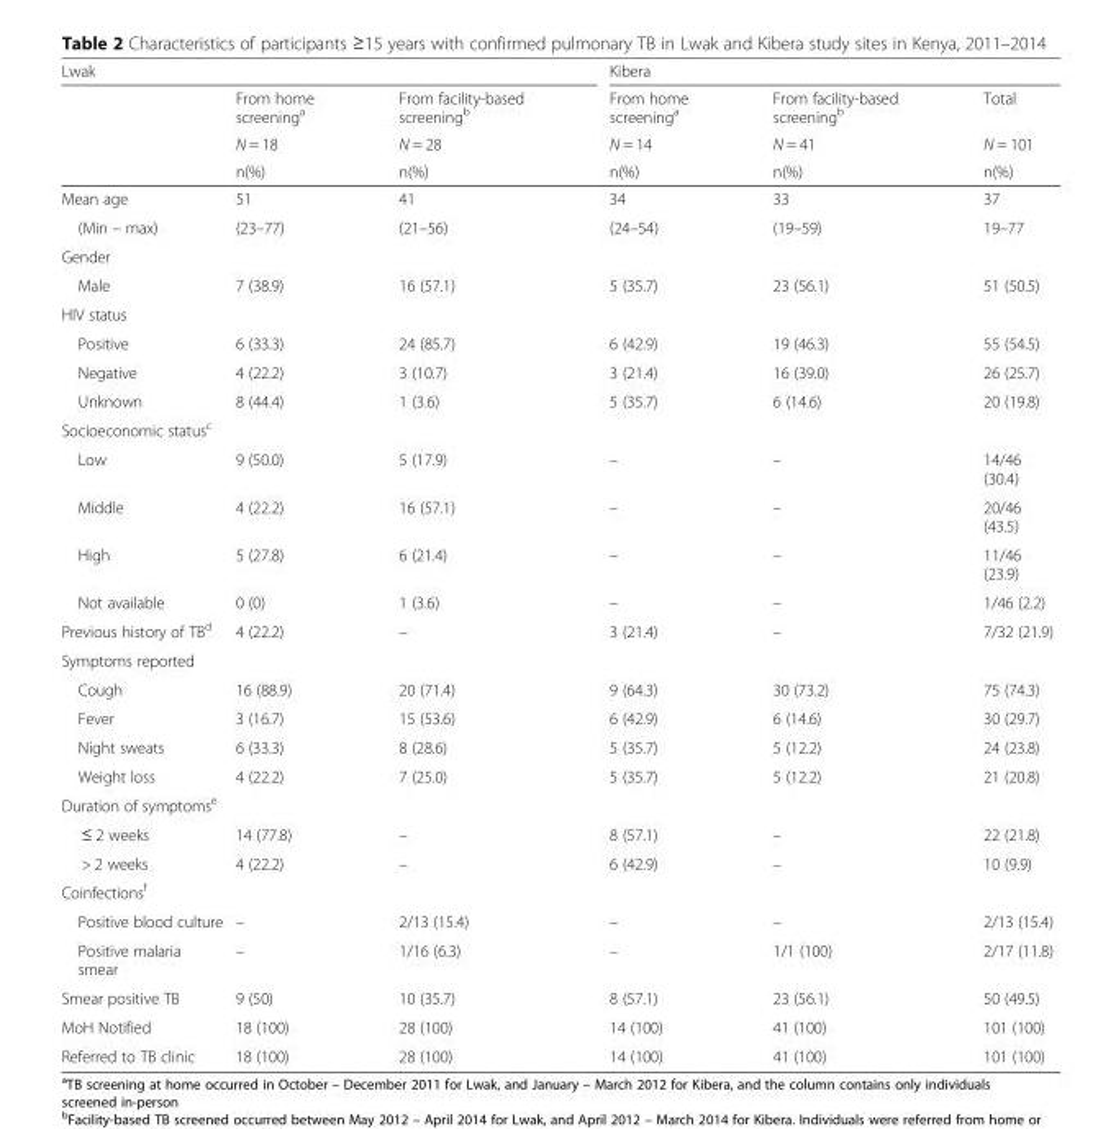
<table><thead><tr><td colspan="3">Lwak</td><td colspan="3">Kibera</td></tr><tr><td rowspan="3"></td><td rowspan="3">From home screening<sup>a</sup> N = 18 n(%)</td><td rowspan="3">From facility-based screening<sup>b</sup> N = 28 n(%)</td><td rowspan="3">From home screening<sup>a</sup> N = 14 n(%)</td><td rowspan="3">From facility-based screening<sup>b</sup> N = 41 n(%)</td><td rowspan="3">Total N = 101 n(%)</td></tr><tr></tr><tr></tr></thead><tbody><tr><td>Mean age</td><td>51</td><td>41</td><td>34</td><td>33</td><td>37</td></tr><tr><td>(Min – max)</td><td>(23–77)</td><td>(21–56)</td><td>(24–54)</td><td>(19–59)</td><td>19–77</td></tr><tr><td colspan="6">Gender</td></tr><tr><td>Male</td><td>7 (38.9)</td><td>16 (57.1)</td><td>5 (35.7)</td><td>23 (56.1)</td><td>51 (50.5)</td></tr><tr><td colspan="6">HIV status</td></tr><tr><td>Positive</td><td>6 (33.3)</td><td>24 (85.7)</td><td>6 (42.9)</td><td>19 (46.3)</td><td>55 (54.5)</td></tr><tr><td>Negative</td><td>4 (22.2)</td><td>3 (10.7)</td><td>3 (21.4)</td><td>16 (39.0)</td><td>26 (25.7)</td></tr><tr><td>Unknown</td><td>8 (44.4)</td><td>1 (3.6)</td><td>5 (35.7)</td><td>6 (14.6)</td><td>20 (19.8)</td></tr><tr><td colspan="6">Socioeconomic status<sup>c</sup></td></tr><tr><td>Low</td><td>9 (50.0)</td><td>5 (17.9)</td><td>–</td><td>–</td><td>14/46 (30.4)</td></tr><tr><td>Middle</td><td>4 (22.2)</td><td>16 (57.1)</td><td>–</td><td>–</td><td>20/46 (43.5)</td></tr><tr><td>High</td><td>5 (27.8)</td><td>6 (21.4)</td><td>–</td><td>–</td><td>11/46 (23.9)</td></tr><tr><td>Not available</td><td>0 (0)</td><td>1 (3.6)</td><td>–</td><td>–</td><td>1/46 (2.2)</td></tr><tr><td>Previous history of TB<sup>d</sup></td><td>4 (22.2)</td><td>–</td><td>3 (21.4)</td><td>–</td><td>7/32 (21.9)</td></tr><tr><td colspan="6">Symptoms reported</td></tr><tr><td>Cough</td><td>16 (88.9)</td><td>20 (71.4)</td><td>9 (64.3)</td><td>30 (73.2)</td><td>75 (74.3)</td></tr><tr><td>Fever</td><td>3 (16.7)</td><td>15 (53.6)</td><td>6 (42.9)</td><td>6 (14.6)</td><td>30 (29.7)</td></tr><tr><td>Night sweats</td><td>6 (33.3)</td><td>8 (28.6)</td><td>5 (35.7)</td><td>5 (12.2)</td><td>24 (23.8)</td></tr><tr><td>Weight loss</td><td>4 (22.2)</td><td>7 (25.0)</td><td>5 (35.7)</td><td>5 (12.2)</td><td>21 (20.8)</td></tr><tr><td colspan="6">Duration of symptoms<sup>e</sup></td></tr><tr><td>≤ 2 weeks</td><td>14 (77.8)</td><td>–</td><td>8 (57.1)</td><td>–</td><td>22 (21.8)</td></tr><tr><td>&gt; 2 weeks</td><td>4 (22.2)</td><td>–</td><td>6 (42.9)</td><td>–</td><td>10 (9.9)</td></tr><tr><td colspan="6">Coinfections<sup>f</sup></td></tr><tr><td>Positive blood culture</td><td>–</td><td>2/13 (15.4)</td><td>–</td><td>–</td><td>2/13 (15.4)</td></tr><tr><td>Positive malaria smear</td><td>–</td><td>1/16 (6.3)</td><td>–</td><td>1/1 (100)</td><td>2/17 (11.8)</td></tr><tr><td>Smear positive TB</td><td>9 (50)</td><td>10 (35.7)</td><td>8 (57.1)</td><td>23 (56.1)</td><td>50 (49.5)</td></tr><tr><td>MoH Notified</td><td>18 (100)</td><td>28 (100)</td><td>14 (100)</td><td>41 (100)</td><td>101 (100)</td></tr><tr><td>Referred to TB clinic</td><td>18 (100)</td><td>28 (100)</td><td>14 (100)</td><td>41 (100)</td><td>101 (100)</td></tr></tbody></table>